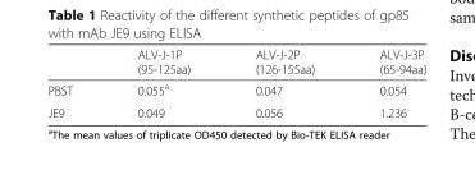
<table><thead><tr><td></td><td>ALV-J-1P (95-125aa)</td><td>ALV-J-2P (126-155aa)</td><td>ALV-J-3P (65-94aa)</td></tr></thead><tbody><tr><td>PBST</td><td>0.055<sup>a</sup></td><td>0.047</td><td>0.054</td></tr><tr><td>JE9</td><td>0.049</td><td>0.056</td><td>1.236</td></tr></tbody></table>